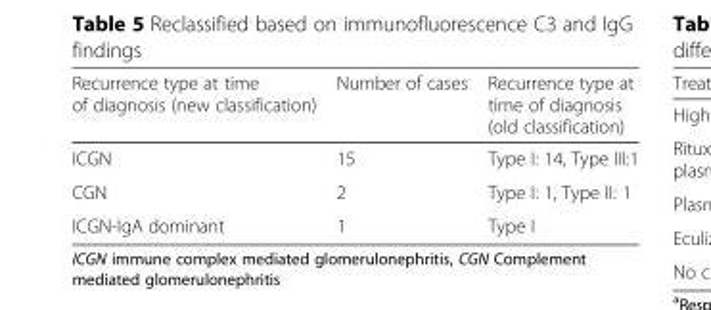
<table><thead><tr><td>Recurrence type at time of diagnosis (new classification)</td><td>Number of cases</td><td>Recurrence type at time of diagnosis (old classification)</td></tr></thead><tbody><tr><td>ICGN</td><td>15</td><td>Type I: 14, Type III:1</td></tr><tr><td>CGN</td><td>2</td><td>Type I: 1, Type II: 1</td></tr><tr><td>ICGN-IgA dominant</td><td>1</td><td>Type I</td></tr></tbody></table>